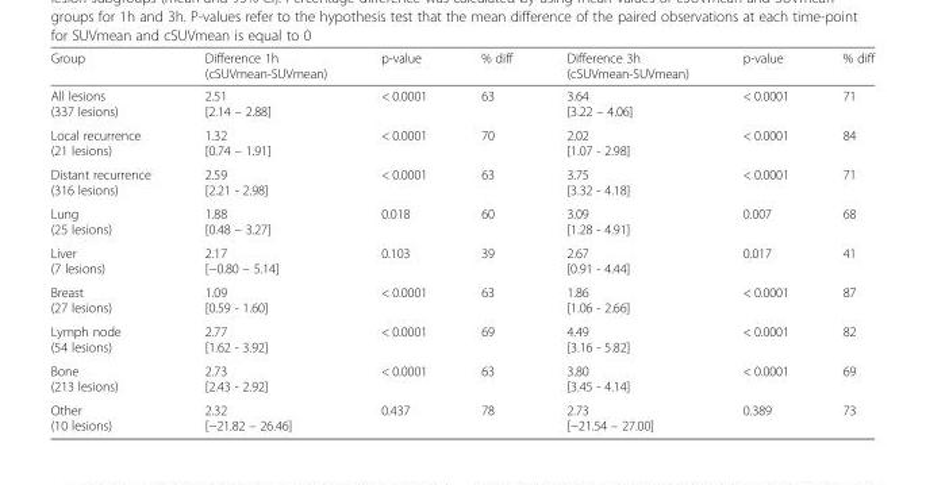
<table><thead><tr><td>Group</td><td>Difference 1h (cSUVmean-SUVmean)</td><td>p-value</td><td>% diff</td><td>Difference 3h (cSUVmean-SUVmean)</td><td>p-value</td><td>% diff</td></tr></thead><tbody><tr><td>All lesions (337 lesions)</td><td>2.51 [2.14 – 2.88]</td><td>&lt; 0.0001</td><td>63</td><td>3.64 [3.22 – 4.06]</td><td>&lt; 0.0001</td><td>71</td></tr><tr><td>Local recurrence (21 lesions)</td><td>1.32 [0.74 – 1.91]</td><td>&lt; 0.0001</td><td>70</td><td>2.02 [1.07 - 2.98]</td><td>&lt; 0.0001</td><td>84</td></tr><tr><td>Distant recurrence (316 lesions)</td><td>2.59 [2.21 - 2.98]</td><td>&lt; 0.0001</td><td>63</td><td>3.75 [3.32 - 4.18]</td><td>&lt; 0.0001</td><td>71</td></tr><tr><td>Lung (25 lesions)</td><td>1.88 [0.48 – 3.27]</td><td>0.018</td><td>60</td><td>3.09 [1.28 - 4.91]</td><td>0.007</td><td>68</td></tr><tr><td>Liver (7 lesions)</td><td>2.17 [−0.80 – 5.14]</td><td>0.103</td><td>39</td><td>2.67 [0.91 - 4.44]</td><td>0.017</td><td>41</td></tr><tr><td>Breast (27 lesions)</td><td>1.09 [0.59 - 1.60]</td><td>&lt; 0.0001</td><td>63</td><td>1.86 [1.06 - 2.66]</td><td>&lt; 0.0001</td><td>87</td></tr><tr><td>Lymph node (54 lesions)</td><td>2.77 [1.62 - 3.92]</td><td>&lt; 0.0001</td><td>69</td><td>4.49 [3.16 - 5.82]</td><td>&lt; 0.0001</td><td>82</td></tr><tr><td>Bone (213 lesions)</td><td>2.73 [2.43 - 2.92]</td><td>&lt; 0.0001</td><td>63</td><td>3.80 [3.45 - 4.14]</td><td>&lt; 0.0001</td><td>69</td></tr><tr><td>Other (10 lesions)</td><td>2.32 [−21.82 – 26.46]</td><td>0.437</td><td>78</td><td>2.73 [−21.54 – 27.00]</td><td>0.389</td><td>73</td></tr></tbody></table>